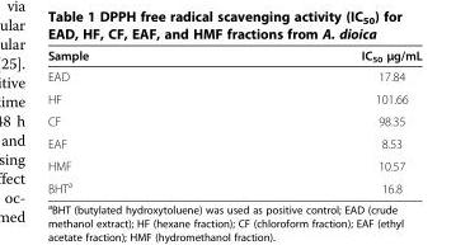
<table><thead><tr><td>Sample</td><td>IC<sub>50</sub> μg/mL</td></tr></thead><tbody><tr><td>EAD</td><td>17.84</td></tr><tr><td>HF</td><td>101.66</td></tr><tr><td>CF</td><td>98.35</td></tr><tr><td>EAF</td><td>8.53</td></tr><tr><td>HMF</td><td>10.57</td></tr><tr><td>BHT<sup>a</sup></td><td>16.8</td></tr></tbody></table>